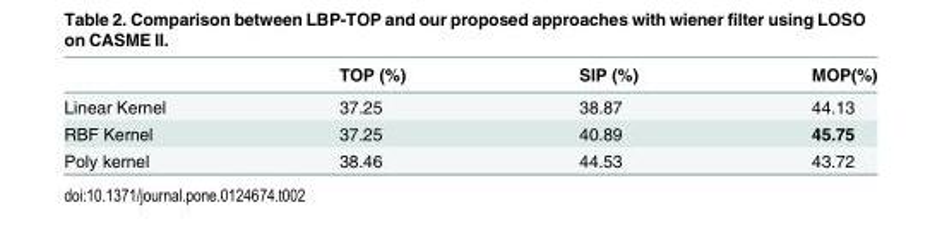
<table><thead><tr><td></td><td>TOP (%)</td><td>SIP (%)</td><td>MOP(%)</td></tr></thead><tbody><tr><td>Linear Kernel</td><td>37.25</td><td>38.87</td><td>44.13</td></tr><tr><td>RBF Kernel</td><td>37.25</td><td>40.89</td><td>45.75</td></tr><tr><td>Poly kernel</td><td>38.46</td><td>44.53</td><td>43.72</td></tr></tbody></table>